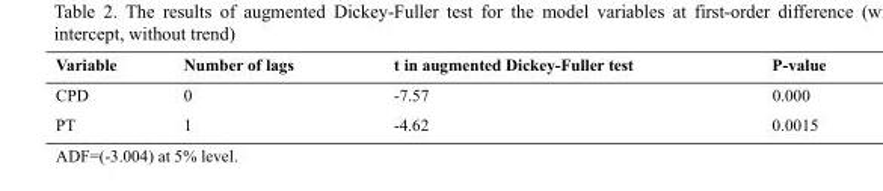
<table><thead><tr><td>Variable</td><td>Number of lags</td><td>t in augmented Dickey-Fuller test</td><td>P-value</td></tr></thead><tbody><tr><td>CPD</td><td>0</td><td>-7.57</td><td>0.000</td></tr><tr><td>PT</td><td>1</td><td>-4.62</td><td>0.0015</td></tr></tbody></table>